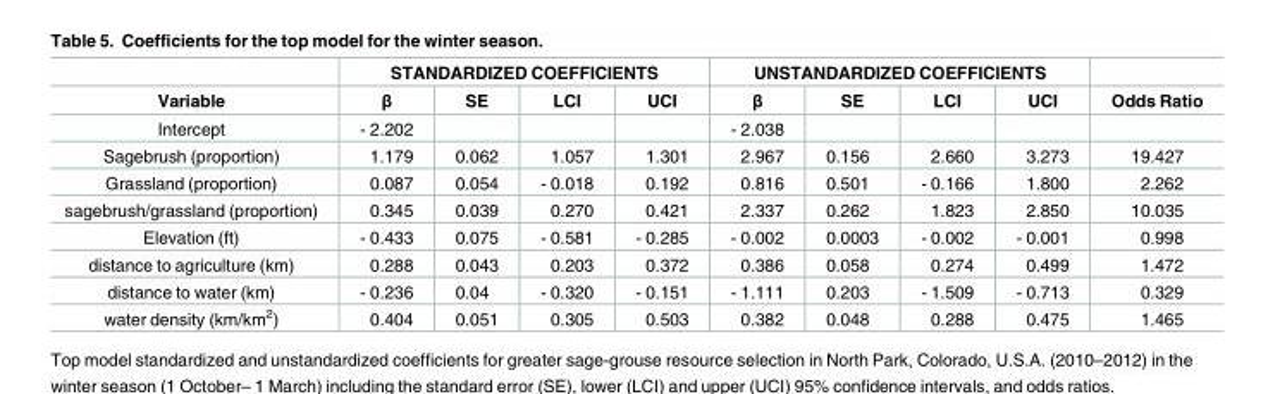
<table><thead><tr><td rowspan="2">Variable</td><td colspan="4">STANDARDIZED COEFFICIENTS</td><td colspan="4">UNSTANDARDIZED COEFFICIENTS</td><td rowspan="2">Odds Ratio</td></tr><tr><td>β</td><td>SE</td><td>LCI</td><td>UCI</td><td>β</td><td>SE</td><td>LCI</td><td>UCI</td></tr></thead><tbody><tr><td>Intercept</td><td>- 2.202</td><td></td><td></td><td></td><td>- 2.038</td><td></td><td></td><td></td><td></td></tr><tr><td>Sagebrush (proportion)</td><td>1.179</td><td>0.062</td><td>1.057</td><td>1.301</td><td>2.967</td><td>0.156</td><td>2.660</td><td>3.273</td><td>19.427</td></tr><tr><td>Grassland (proportion)</td><td>0.087</td><td>0.054</td><td>- 0.018</td><td>0.192</td><td>0.816</td><td>0.501</td><td>- 0.166</td><td>1.800</td><td>2.262</td></tr><tr><td>sagebrush/grassland (proportion)</td><td>0.345</td><td>0.039</td><td>0.270</td><td>0.421</td><td>2.337</td><td>0.262</td><td>1.823</td><td>2.850</td><td>10.035</td></tr><tr><td>Elevation (ft)</td><td>- 0.433</td><td>0.075</td><td>- 0.581</td><td>- 0.285</td><td>- 0.002</td><td>0.0003</td><td>- 0.002</td><td>- 0.001</td><td>0.998</td></tr><tr><td>distance to agriculture (km)</td><td>0.288</td><td>0.043</td><td>0.203</td><td>0.372</td><td>0.386</td><td>0.058</td><td>0.274</td><td>0.499</td><td>1.472</td></tr><tr><td>distance to water (km)</td><td>- 0.236</td><td>0.04</td><td>- 0.320</td><td>- 0.151</td><td>- 1.111</td><td>0.203</td><td>- 1.509</td><td>- 0.713</td><td>0.329</td></tr><tr><td>water density (km/km<sup>2</sup>)</td><td>0.404</td><td>0.051</td><td>0.305</td><td>0.503</td><td>0.382</td><td>0.048</td><td>0.288</td><td>0.475</td><td>1.465</td></tr></tbody></table>